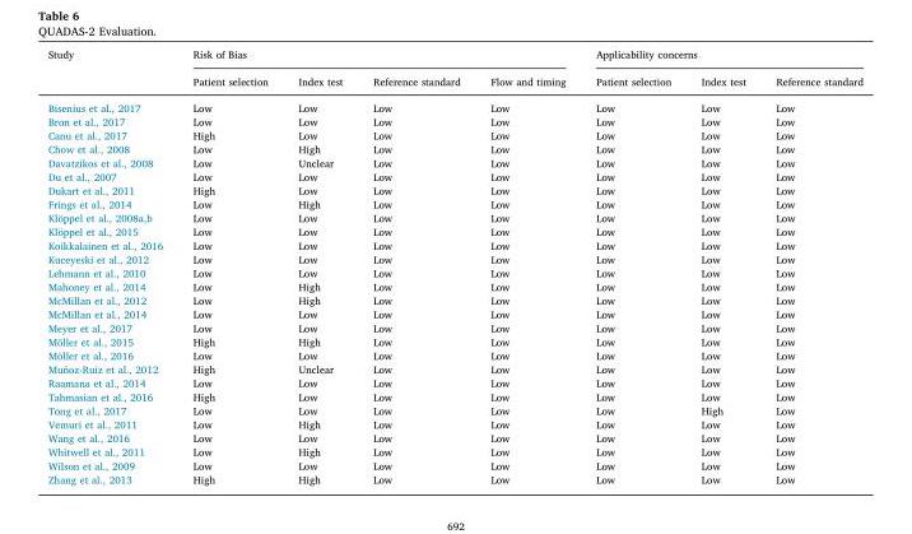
<table><thead><tr><td rowspan="2">Study</td><td colspan="4">Risk of Bias</td><td colspan="3">Applicability concerns</td></tr><tr><td>Patient selection</td><td>Index test</td><td>Reference standard</td><td>Flow and timing</td><td>Patient selection</td><td>Index test</td><td>Reference standard</td></tr></thead><tbody><tr><td>Bisenius et al., 2017</td><td>Low</td><td>Low</td><td>Low</td><td>Low</td><td>Low</td><td>Low</td><td>Low</td></tr><tr><td>Bron et al., 2017</td><td>Low</td><td>Low</td><td>Low</td><td>Low</td><td>Low</td><td>Low</td><td>Low</td></tr><tr><td>Canu et al., 2017</td><td>High</td><td>Low</td><td>Low</td><td>Low</td><td>Low</td><td>Low</td><td>Low</td></tr><tr><td>Chow et al., 2008</td><td>Low</td><td>High</td><td>Low</td><td>Low</td><td>Low</td><td>Low</td><td>Low</td></tr><tr><td>Davatzikos et al., 2008</td><td>Low</td><td>Unclear</td><td>Low</td><td>Low</td><td>Low</td><td>Low</td><td>Low</td></tr><tr><td>Du et al., 2007</td><td>Low</td><td>Low</td><td>Low</td><td>Low</td><td>Low</td><td>Low</td><td>Low</td></tr><tr><td>Dukart et al., 2011</td><td>High</td><td>Low</td><td>Low</td><td>Low</td><td>Low</td><td>Low</td><td>Low</td></tr><tr><td>Frings et al., 2014</td><td>Low</td><td>High</td><td>Low</td><td>Low</td><td>Low</td><td>Low</td><td>Low</td></tr><tr><td>Klöppel et al., 2008a,b</td><td>Low</td><td>Low</td><td>Low</td><td>Low</td><td>Low</td><td>Low</td><td>Low</td></tr><tr><td>Klöppel et al., 2015</td><td>Low</td><td>Low</td><td>Low</td><td>Low</td><td>Low</td><td>Low</td><td>Low</td></tr><tr><td>Koikkalainen et al., 2016</td><td>Low</td><td>Low</td><td>Low</td><td>Low</td><td>Low</td><td>Low</td><td>Low</td></tr><tr><td>Kuceyeski et al., 2012</td><td>Low</td><td>Low</td><td>Low</td><td>Low</td><td>Low</td><td>Low</td><td>Low</td></tr><tr><td>Lehmann et al., 2010</td><td>Low</td><td>Low</td><td>Low</td><td>Low</td><td>Low</td><td>Low</td><td>Low</td></tr><tr><td>Mahoney et al., 2014</td><td>Low</td><td>High</td><td>Low</td><td>Low</td><td>Low</td><td>Low</td><td>Low</td></tr><tr><td>McMillan et al., 2012</td><td>Low</td><td>High</td><td>Low</td><td>Low</td><td>Low</td><td>Low</td><td>Low</td></tr><tr><td>McMillan et al., 2014</td><td>Low</td><td>Low</td><td>Low</td><td>Low</td><td>Low</td><td>Low</td><td>Low</td></tr><tr><td>Meyer et al., 2017</td><td>Low</td><td>Low</td><td>Low</td><td>Low</td><td>Low</td><td>Low</td><td>Low</td></tr><tr><td>Möller et al., 2015</td><td>High</td><td>High</td><td>Low</td><td>Low</td><td>Low</td><td>Low</td><td>Low</td></tr><tr><td>Möller et al., 2016</td><td>Low</td><td>Low</td><td>Low</td><td>Low</td><td>Low</td><td>Low</td><td>Low</td></tr><tr><td>Muñoz-Ruiz et al., 2012</td><td>High</td><td>Unclear</td><td>Low</td><td>Low</td><td>Low</td><td>Low</td><td>Low</td></tr><tr><td>Raamana et al., 2014</td><td>Low</td><td>Low</td><td>Low</td><td>Low</td><td>Low</td><td>Low</td><td>Low</td></tr><tr><td>Tahmasian et al., 2016</td><td>High</td><td>Low</td><td>Low</td><td>Low</td><td>Low</td><td>Low</td><td>Low</td></tr><tr><td>Tong et al., 2017</td><td>Low</td><td>Low</td><td>Low</td><td>Low</td><td>Low</td><td>High</td><td>Low</td></tr><tr><td>Vemuri et al., 2011</td><td>Low</td><td>High</td><td>Low</td><td>Low</td><td>Low</td><td>Low</td><td>Low</td></tr><tr><td>Wang et al., 2016</td><td>Low</td><td>Low</td><td>Low</td><td>Low</td><td>Low</td><td>Low</td><td>Low</td></tr><tr><td>Whitwell et al., 2011</td><td>Low</td><td>High</td><td>Low</td><td>Low</td><td>Low</td><td>Low</td><td>Low</td></tr><tr><td>Wilson et al., 2009</td><td>Low</td><td>Low</td><td>Low</td><td>Low</td><td>Low</td><td>Low</td><td>Low</td></tr><tr><td>Zhang et al., 2013</td><td>High</td><td>High</td><td>Low</td><td>Low</td><td>Low</td><td>Low</td><td>Low</td></tr></tbody></table>